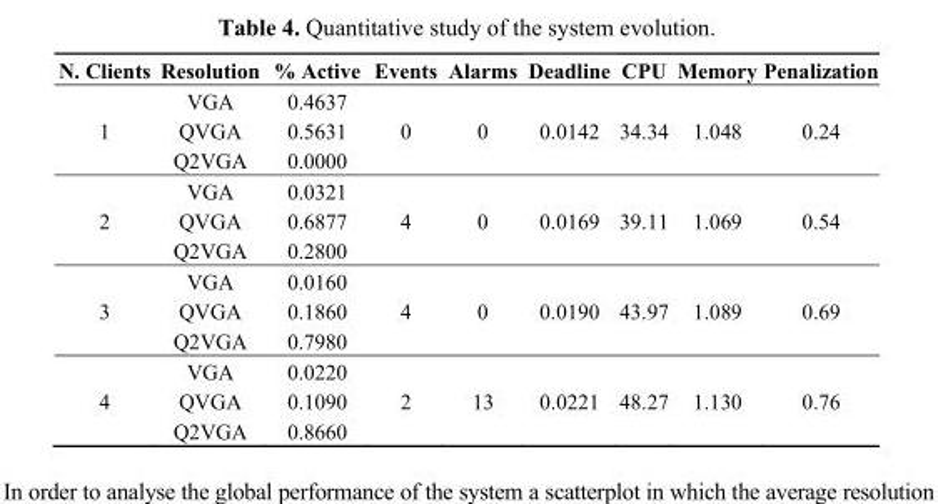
<table><thead><tr><td>N. Clients</td><td>Resolution</td><td>% Active</td><td>Events</td><td>Alarms</td><td>Deadline</td><td>CPU</td><td>Memory</td><td>Penalization</td></tr></thead><tbody><tr><td></td><td>VGA</td><td>0.4637</td><td></td><td></td><td></td><td></td><td></td><td></td></tr><tr><td rowspan="3">1</td><td>QVGA</td><td>0.5631</td><td>0</td><td>0</td><td>0.0142</td><td>34.34</td><td>1.048</td><td>0.24</td></tr><tr><td>Q2VGA</td><td>0.0000</td><td></td><td></td><td></td><td></td><td></td><td></td></tr><tr><td>VGA</td><td>0.0321</td><td></td><td></td><td></td><td></td><td></td><td></td></tr><tr><td rowspan="3">2</td><td>QVGA</td><td>0.6877</td><td>4</td><td>0</td><td>0.0169</td><td>39.11</td><td>1.069</td><td>0.54</td></tr><tr><td>Q2VGA</td><td>0.2800</td><td></td><td></td><td></td><td></td><td></td><td></td></tr><tr><td>VGA</td><td>0.0160</td><td></td><td></td><td></td><td></td><td></td><td></td></tr><tr><td rowspan="3">3</td><td>QVGA</td><td>0.1860</td><td>4</td><td>0</td><td>0.0190</td><td>43.97</td><td>1.089</td><td>0.69</td></tr><tr><td>Q2VGA</td><td>0.7980</td><td></td><td></td><td></td><td></td><td></td><td></td></tr><tr><td>VGA</td><td>0.0220</td><td></td><td></td><td></td><td></td><td></td><td></td></tr><tr><td rowspan="2">4</td><td>QVGA</td><td>0.1090</td><td>2</td><td>13</td><td>0.0221</td><td>48.27</td><td>1.130</td><td>0.76</td></tr><tr><td>Q2VGA</td><td>0.8660</td><td></td><td></td><td></td><td></td><td></td><td></td></tr></tbody></table>